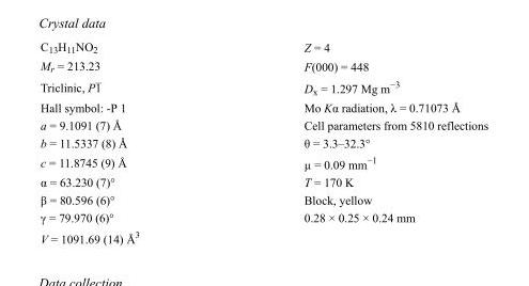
<table><tbody><tr><td>C<sub>13</sub>H<sub>11</sub>NO<sub>2</sub></td><td>Z = 4</td></tr><tr><td>M<sub>r</sub> = 213.23</td><td>F(000) = 448</td></tr><tr><td>Triclinic, P1</td><td>D<sub>x</sub> = 1.297 Mg m<sup>−3</sup></td></tr><tr><td>Hall symbol: -P 1</td><td>Mo Kα radiation, λ = 0.71073 Å</td></tr><tr><td>a = 9.1091 (7) Å</td><td>Cell parameters from 5810 reflections</td></tr><tr><td>b = 11.5337 (8) Å</td><td>θ = 3.3–32.3°</td></tr><tr><td>c = 11.8745 (9) Å</td><td>µ = 0.09 mm<sup>−1</sup></td></tr><tr><td>α = 63.230 (7)°</td><td>T = 170 K</td></tr><tr><td>β = 80.596 (6)°</td><td>Block, yellow</td></tr><tr><td>γ = 79.970 (6)°</td><td>0.28 × 0.25 × 0.24 mm</td></tr><tr><td>V = 1091.69 (14) Å<sup>3</sup></td><td></td></tr></tbody></table>